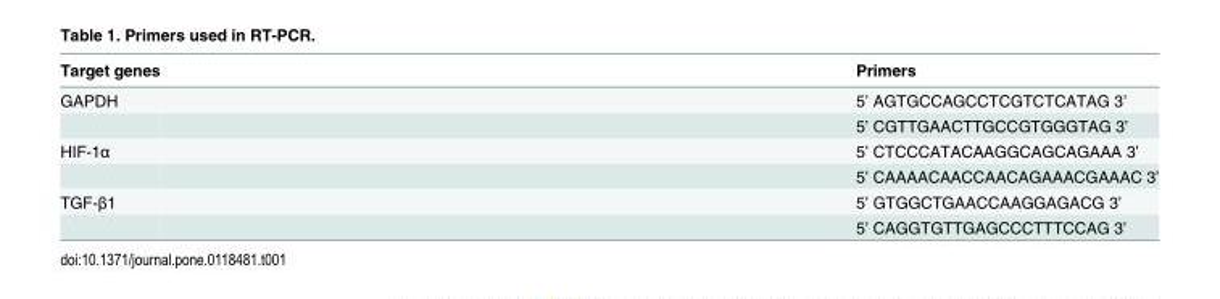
<table><thead><tr><td>Target genes</td><td>Primers</td></tr></thead><tbody><tr><td rowspan="2">GAPDH</td><td>5’ AGTGCCAGCCTCGTCTCATAG 3’</td></tr><tr><td>5’ CGTTGAACTTGCCGTGGGTAG 3’</td></tr><tr><td rowspan="2">HIF-1α</td><td>5’ CTCCCATACAAGGCAGCAGAAA 3’</td></tr><tr><td>5’ CAAAACAACCAACAGAAACGAAAC 3’</td></tr><tr><td rowspan="2">TGF-β1</td><td>5’ GTGGCTGAACCAAGGAGACG 3’</td></tr><tr><td>5’ CAGGTGTTGAGCCCTTTCCAG 3’</td></tr></tbody></table>